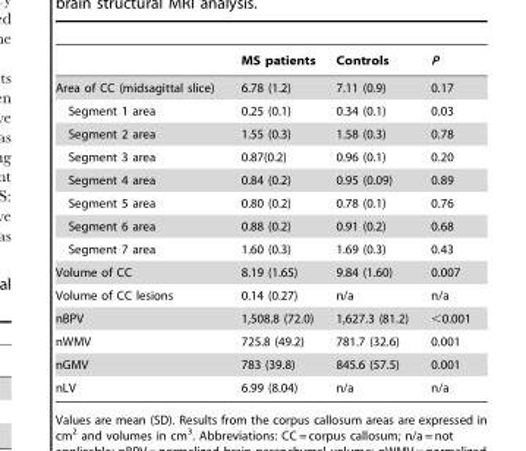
<table><thead><tr><td></td><td>MS patients</td><td>Controls</td><td>P</td></tr></thead><tbody><tr><td>Area of CC (midsagittal slice)</td><td>6.78 (1.2)</td><td>7.11 (0.9)</td><td>0.17</td></tr><tr><td>Segment 1 area</td><td>0.25 (0.1)</td><td>0.34 (0.1)</td><td>0.03</td></tr><tr><td>Segment 2 area</td><td>1.55 (0.3)</td><td>1.58 (0.3)</td><td>0.78</td></tr><tr><td>Segment 3 area</td><td>0.87(0.2)</td><td>0.96 (0.1)</td><td>0.20</td></tr><tr><td>Segment 4 area</td><td>0.84 (0.2)</td><td>0.95 (0.09)</td><td>0.89</td></tr><tr><td>Segment 5 area</td><td>0.80 (0.2)</td><td>0.78 (0.1)</td><td>0.76</td></tr><tr><td>Segment 6 area</td><td>0.88 (0.2)</td><td>0.91 (0.2)</td><td>0.68</td></tr><tr><td>Segment 7 area</td><td>1.60 (0.3)</td><td>1.69 (0.3)</td><td>0.43</td></tr><tr><td>Volume of CC</td><td>8.19 (1.65)</td><td>9.84 (1.60)</td><td>0.007</td></tr><tr><td>Volume of CC lesions</td><td>0.14 (0.27)</td><td>n/a</td><td>n/a</td></tr><tr><td>nBPV</td><td>1,508.8 (72.0)</td><td>1,627.3 (81.2)</td><td>&lt;0.001</td></tr><tr><td>nWMV</td><td>725.8 (49.2)</td><td>781.7 (32.6)</td><td>0.001</td></tr><tr><td>nGMV</td><td>783 (39.8)</td><td>845.6 (57.5)</td><td>0.001</td></tr><tr><td>nLV</td><td>6.99 (8.04)</td><td>n/a</td><td>n/a</td></tr></tbody></table>